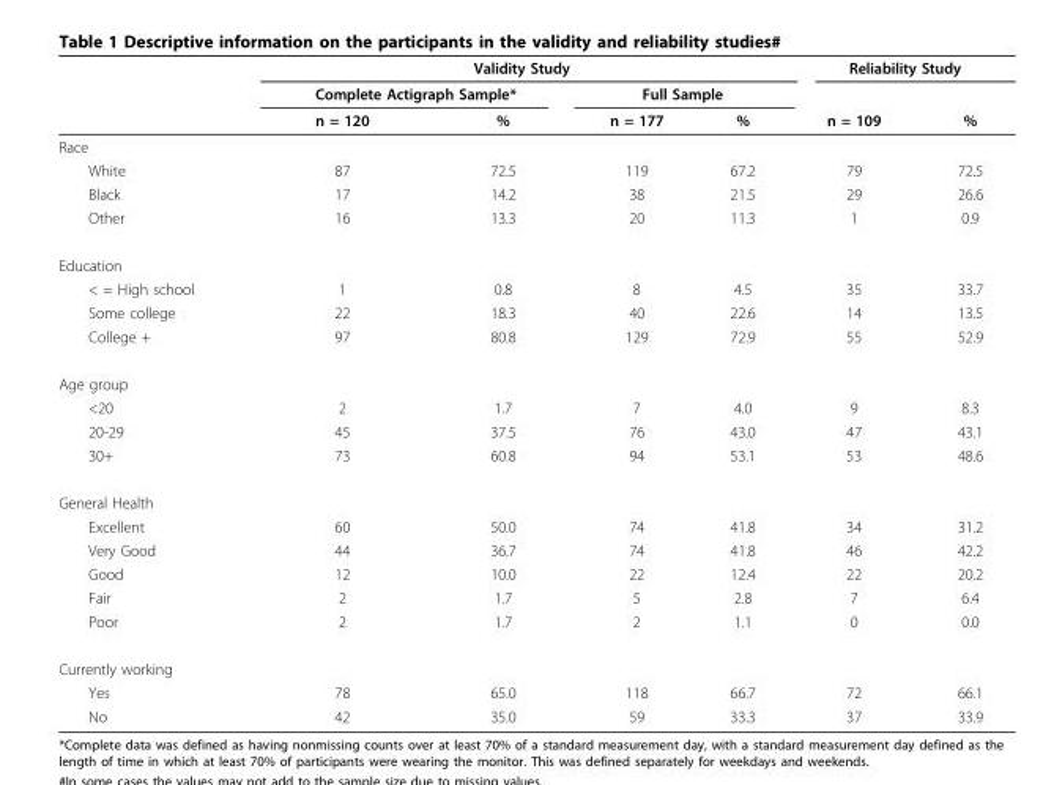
<table><thead><tr><td rowspan="3"></td><td colspan="4">Validity Study</td><td colspan="2">Reliability Study</td></tr><tr><td colspan="2">Complete Actigraph Sample*</td><td colspan="2">Full Sample</td><td rowspan="2">n = 109</td><td rowspan="2">%</td></tr><tr><td>n = 120</td><td>%</td><td>n = 177</td><td>%</td></tr></thead><tbody><tr><td colspan="7">Race</td></tr><tr><td>White</td><td>87</td><td>72.5</td><td>119</td><td>67.2</td><td>79</td><td>72.5</td></tr><tr><td>Black</td><td>17</td><td>14.2</td><td>38</td><td>21.5</td><td>29</td><td>26.6</td></tr><tr><td>Other</td><td>16</td><td>13.3</td><td>20</td><td>11.3</td><td>1</td><td>0.9</td></tr><tr><td colspan="7">Education</td></tr><tr><td>&lt; = High school</td><td>1</td><td>0.8</td><td>8</td><td>4.5</td><td>35</td><td>33.7</td></tr><tr><td>Some college</td><td>22</td><td>18.3</td><td>40</td><td>22.6</td><td>14</td><td>13.5</td></tr><tr><td>College +</td><td>97</td><td>80.8</td><td>129</td><td>72.9</td><td>55</td><td>52.9</td></tr><tr><td colspan="7">Age group</td></tr><tr><td>&lt;20</td><td>2</td><td>1.7</td><td>7</td><td>4.0</td><td>9</td><td>8.3</td></tr><tr><td>20-29</td><td>45</td><td>37.5</td><td>76</td><td>43.0</td><td>47</td><td>43.1</td></tr><tr><td>30+</td><td>73</td><td>60.8</td><td>94</td><td>53.1</td><td>53</td><td>48.6</td></tr><tr><td colspan="7">General Health</td></tr><tr><td>Excellent</td><td>60</td><td>50.0</td><td>74</td><td>41.8</td><td>34</td><td>31.2</td></tr><tr><td>Very Good</td><td>44</td><td>36.7</td><td>74</td><td>41.8</td><td>46</td><td>42.2</td></tr><tr><td>Good</td><td>12</td><td>10.0</td><td>22</td><td>12.4</td><td>22</td><td>20.2</td></tr><tr><td>Fair</td><td>2</td><td>1.7</td><td>5</td><td>2.8</td><td>7</td><td>6.4</td></tr><tr><td>Poor</td><td>2</td><td>1.7</td><td>2</td><td>1.1</td><td>0</td><td>0.0</td></tr><tr><td colspan="7">Currently working</td></tr><tr><td>Yes</td><td>78</td><td>65.0</td><td>118</td><td>66.7</td><td>72</td><td>66.1</td></tr><tr><td>No</td><td>42</td><td>35.0</td><td>59</td><td>33.3</td><td>37</td><td>33.9</td></tr></tbody></table>